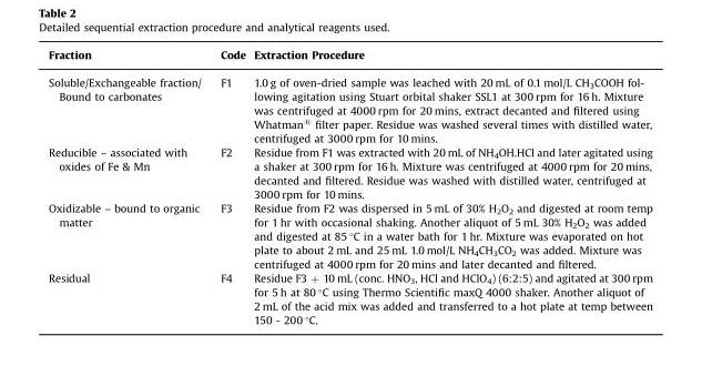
<table><thead><tr><td>Fraction</td><td>Code</td><td>Extraction Procedure</td></tr></thead><tbody><tr><td>Soluble/Exchangeable fraction/ Bound to carbonates</td><td>F1</td><td>1.0 g of oven-dried sample was leached with 20 mL of 0.1 mol/L CH3COOH fol- lowing agitation using Stuart orbital shaker SSL1 at 300 rpm for 16 h. Mixture was centrifuged at 4000 rpm for 20 mins, extract decanted and filtered using Whatmans filter paper. Residue was washed several times with distilled water, centrifuged at 3000 rpm for 10 mins.</td></tr><tr><td>Reducible – associated with oxides of Fe &amp; Mn</td><td>F2</td><td>Residue from F1 was extracted with 20 mL of NH<sub>4</sub>OH.HCl and later agitated using a shaker at 300 rpm for 16 h. Mixture was centrifuged at 4000 rpm for 20 mins, decanted and filtered. Residue was washed with distilled water, centrifuged at 3000 rpm for 10 mins.</td></tr><tr><td>Oxidizable – bound to organic matter</td><td>F3</td><td>Residue from F2 was dispersed in 5 mL of 30% H<sub>2</sub>O<sub>2</sub> and digested at room temp for 1 hr with occasional shaking. Another aliquot of 5 mL 30% H<sub>2</sub>O<sub>2</sub> was added and digested at 85 °C in a water bath for 1 hr. Mixture was evaporated on hot plate to about 2 mL and 25 mL 1.0 mol/L NH<sub>4</sub>CH<sub>3</sub>CO<sub>2</sub> was added. Mixture was centrifuged at 4000 rpm for 20 mins and later decanted and filtered.</td></tr><tr><td>Residual</td><td>F4</td><td>Residue F3 + 10 mL (conc. HNO<sub>3</sub>, HCl and HClO<sub>4</sub>) (6:2:5) and agitated at 300 rpm for 5 h at 80 °C using Thermo Scientific maxQ 4000 shaker. Another aliquot of 2 mL of the acid mix was added and transferred to a hot plate at temp between 150 - 200 °C.</td></tr></tbody></table>